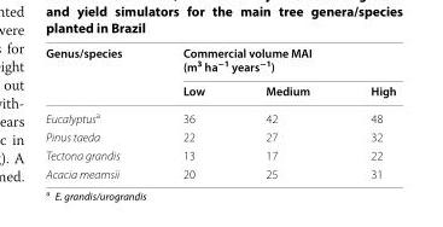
<table><thead><tr><td rowspan="2">Genus/species</td><td colspan="3">Commercial volume MAI (m<sup>3</sup> ha<sup>−1</sup> years<sup>−1</sup>)</td></tr><tr><td>Low</td><td>Medium</td><td>High</td></tr></thead><tbody><tr><td>Eucalyptus<sup>a</sup></td><td>36</td><td>42</td><td>48</td></tr><tr><td>Pinus taeda</td><td>22</td><td>27</td><td>32</td></tr><tr><td>Tectona grandis</td><td>13</td><td>17</td><td>22</td></tr><tr><td>Acacia mearnsii</td><td>20</td><td>25</td><td>31</td></tr></tbody></table>